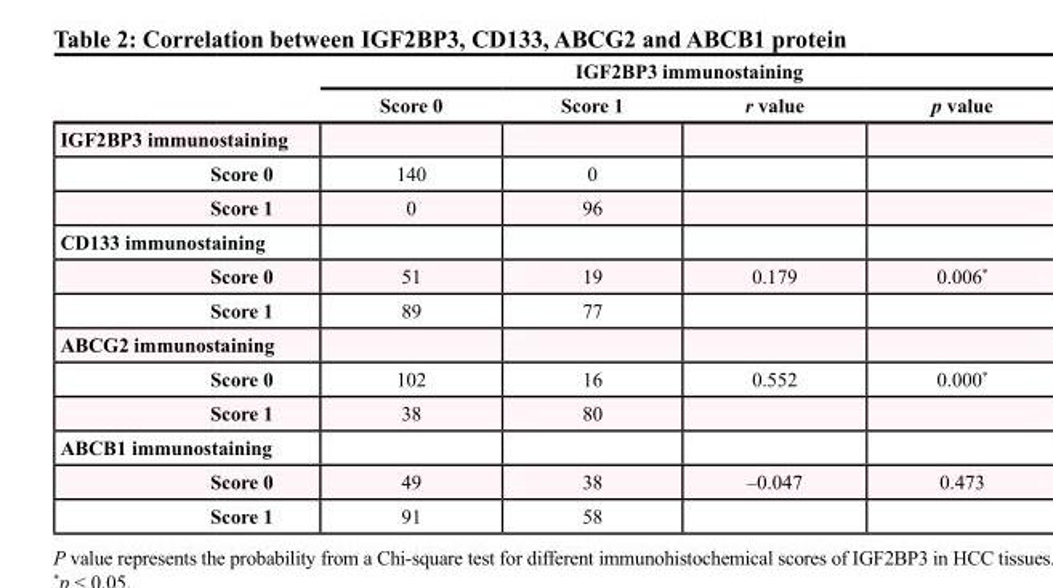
<table><thead><tr><td rowspan="2"></td><td colspan="4">IGF2BP3 immunostaining</td></tr><tr><td>Score 0</td><td>Score 1</td><td>r value</td><td>p value</td></tr></thead><tbody><tr><td colspan="5">IGF2BP3 immunostaining</td></tr><tr><td>Score 0</td><td>140</td><td>0</td><td></td><td></td></tr><tr><td>Score 1</td><td>0</td><td>96</td><td></td><td></td></tr><tr><td colspan="5">CD133 immunostaining</td></tr><tr><td>Score 0</td><td>51</td><td>19</td><td>0.179</td><td>0.006*</td></tr><tr><td>Score 1</td><td>89</td><td>77</td><td></td><td></td></tr><tr><td colspan="5">ABCG2 immunostaining</td></tr><tr><td>Score 0</td><td>102</td><td>16</td><td>0.552</td><td>0.000*</td></tr><tr><td>Score 1</td><td>38</td><td>80</td><td></td><td></td></tr><tr><td colspan="5">ABCB1 immunostaining</td></tr><tr><td>Score 0</td><td>49</td><td>38</td><td>–0.047</td><td>0.473</td></tr><tr><td>Score 1</td><td>91</td><td>58</td><td></td><td></td></tr></tbody></table>